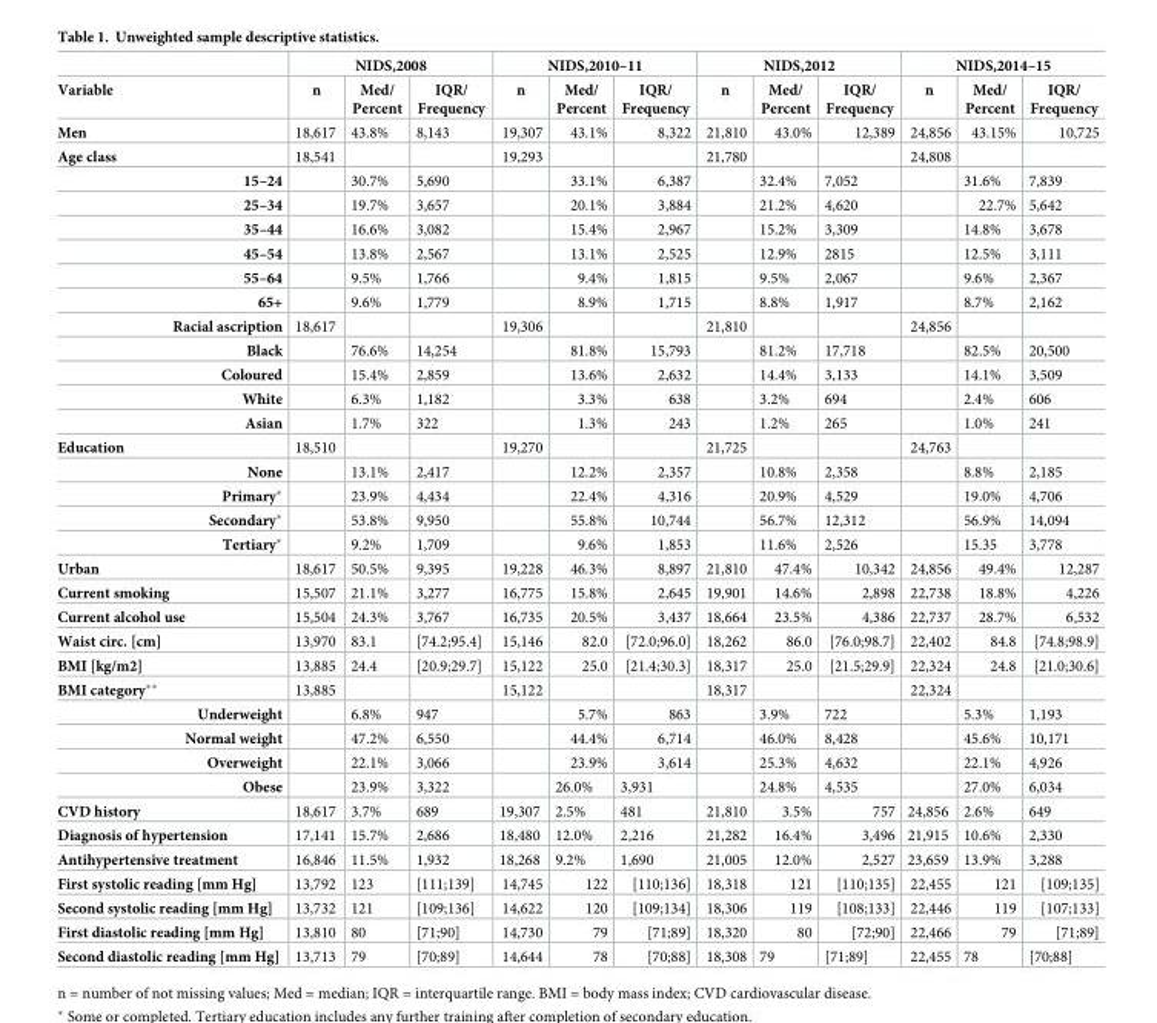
<table><thead><tr><td rowspan="2">Variable</td><td colspan="3">NIDS,2008</td><td colspan="3">NIDS,2010–11</td><td colspan="3">NIDS,2012</td><td colspan="3">NIDS,2014–15</td></tr><tr><td>n</td><td>Med/ Percent</td><td>IQR/ Frequency</td><td>n</td><td>Med/ Percent</td><td>IQR/ Frequency</td><td>n</td><td>Med/ Percent</td><td>IQR/ Frequency</td><td>n</td><td>Med/ Percent</td><td>IQR/ Frequency</td></tr></thead><tbody><tr><td>Men</td><td>18,617</td><td>43.8%</td><td>8,143</td><td>19,307</td><td>43.1%</td><td>8,322</td><td>21,810</td><td>43.0%</td><td>12,389</td><td>24,856</td><td>43.15%</td><td>10,725</td></tr><tr><td>Age class</td><td>18,541</td><td></td><td></td><td>19,293</td><td></td><td></td><td>21,780</td><td></td><td></td><td>24,808</td><td></td><td></td></tr><tr><td>15–24</td><td></td><td>30.7%</td><td>5,690</td><td></td><td>33.1%</td><td>6,387</td><td></td><td>32.4%</td><td>7,052</td><td></td><td>31.6%</td><td>7,839</td></tr><tr><td>25–34</td><td></td><td>19.7%</td><td>3,657</td><td></td><td>20.1%</td><td>3,884</td><td></td><td>21.2%</td><td>4,620</td><td></td><td>22.7%</td><td>5,642</td></tr><tr><td>35–44</td><td></td><td>16.6%</td><td>3,082</td><td></td><td>15.4%</td><td>2,967</td><td></td><td>15.2%</td><td>3,309</td><td></td><td>14.8%</td><td>3,678</td></tr><tr><td>45–54</td><td></td><td>13.8%</td><td>2,567</td><td></td><td>13.1%</td><td>2,525</td><td></td><td>12.9%</td><td>2815</td><td></td><td>12.5%</td><td>3,111</td></tr><tr><td>55–64</td><td></td><td>9.5%</td><td>1,766</td><td></td><td>9.4%</td><td>1,815</td><td></td><td>9.5%</td><td>2,067</td><td></td><td>9.6%</td><td>2,367</td></tr><tr><td>65+</td><td></td><td>9.6%</td><td>1,779</td><td></td><td>8.9%</td><td>1,715</td><td></td><td>8.8%</td><td>1,917</td><td></td><td>8.7%</td><td>2,162</td></tr><tr><td>Racial ascription</td><td>18,617</td><td></td><td></td><td>19,306</td><td></td><td></td><td>21,810</td><td></td><td></td><td>24,856</td><td></td><td></td></tr><tr><td>Black</td><td></td><td>76.6%</td><td>14,254</td><td></td><td>81.8%</td><td>15,793</td><td></td><td>81.2%</td><td>17,718</td><td></td><td>82.5%</td><td>20,500</td></tr><tr><td>Coloured</td><td></td><td>15.4%</td><td>2,859</td><td></td><td>13.6%</td><td>2,632</td><td></td><td>14.4%</td><td>3,133</td><td></td><td>14.1%</td><td>3,509</td></tr><tr><td>White</td><td></td><td>6.3%</td><td>1,182</td><td></td><td>3.3%</td><td>638</td><td></td><td>3.2%</td><td>694</td><td></td><td>2.4%</td><td>606</td></tr><tr><td>Asian</td><td></td><td>1.7%</td><td>322</td><td></td><td>1.3%</td><td>243</td><td></td><td>1.2%</td><td>265</td><td></td><td>1.0%</td><td>241</td></tr><tr><td>Education</td><td>18,510</td><td></td><td></td><td>19,270</td><td></td><td></td><td>21,725</td><td></td><td></td><td>24,763</td><td></td><td></td></tr><tr><td>None</td><td></td><td>13.1%</td><td>2,417</td><td></td><td>12.2%</td><td>2,357</td><td></td><td>10.8%</td><td>2,358</td><td></td><td>8.8%</td><td>2,185</td></tr><tr><td>Primary*</td><td></td><td>23.9%</td><td>4,434</td><td></td><td>22.4%</td><td>4,316</td><td></td><td>20.9%</td><td>4,529</td><td></td><td>19.0%</td><td>4,706</td></tr><tr><td>Secondary*</td><td></td><td>53.8%</td><td>9,950</td><td></td><td>55.8%</td><td>10,744</td><td></td><td>56.7%</td><td>12,312</td><td></td><td>56.9%</td><td>14,094</td></tr><tr><td>Tertiary*</td><td></td><td>9.2%</td><td>1,709</td><td></td><td>9.6%</td><td>1,853</td><td></td><td>11.6%</td><td>2,526</td><td></td><td>15.35</td><td>3,778</td></tr><tr><td>Urban</td><td>18,617</td><td>50.5%</td><td>9,395</td><td>19,228</td><td>46.3%</td><td>8,897</td><td>21,810</td><td>47.4%</td><td>10,342</td><td>24,856</td><td>49.4%</td><td>12,287</td></tr><tr><td>Current smoking</td><td>15,507</td><td>21.1%</td><td>3,277</td><td>16,775</td><td>15.8%</td><td>2,645</td><td>19,901</td><td>14.6%</td><td>2,898</td><td>22,738</td><td>18.8%</td><td>4,226</td></tr><tr><td>Current alcohol use</td><td>15,504</td><td>24.3%</td><td>3,767</td><td>16,735</td><td>20.5%</td><td>3,437</td><td>18,664</td><td>23.5%</td><td>4,386</td><td>22,737</td><td>28.7%</td><td>6,532</td></tr><tr><td>Waist circ. [cm]</td><td>13,970</td><td>83.1</td><td>[74.2;95.4]</td><td>15,146</td><td>82.0</td><td>[72.0;96.0]</td><td>18,262</td><td>86.0</td><td>[76.0;98.7]</td><td>22,402</td><td>84.8</td><td>[74.8;98.9]</td></tr><tr><td>BMI [kg/m2]</td><td>13,885</td><td>24.4</td><td>[20.9;29.7]</td><td>15,122</td><td>25.0</td><td>[21.4;30.3]</td><td>18,317</td><td>25.0</td><td>[21.5;29.9]</td><td>22,324</td><td>24.8</td><td>[21.0;30.6]</td></tr><tr><td>BMI category**</td><td>13,885</td><td></td><td></td><td>15,122</td><td></td><td></td><td>18,317</td><td></td><td></td><td>22,324</td><td></td><td></td></tr><tr><td>Underweight</td><td></td><td>6.8%</td><td>947</td><td></td><td>5.7%</td><td>863</td><td></td><td>3.9%</td><td>722</td><td></td><td>5.3%</td><td>1,193</td></tr><tr><td>Normal weight</td><td></td><td>47.2%</td><td>6,550</td><td></td><td>44.4%</td><td>6,714</td><td></td><td>46.0%</td><td>8,428</td><td></td><td>45.6%</td><td>10,171</td></tr><tr><td>Overweight</td><td></td><td>22.1%</td><td>3,066</td><td></td><td>23.9%</td><td>3,614</td><td></td><td>25.3%</td><td>4,632</td><td></td><td>22.1%</td><td>4,926</td></tr><tr><td>Obese</td><td></td><td>23.9%</td><td>3,322</td><td></td><td>26.0%</td><td>3,931</td><td></td><td>24.8%</td><td>4,535</td><td></td><td>27.0%</td><td>6,034</td></tr><tr><td>CVD history</td><td>18,617</td><td>3.7%</td><td>689</td><td>19,307</td><td>2.5%</td><td>481</td><td>21,810</td><td>3.5%</td><td>757</td><td>24,856</td><td>2.6%</td><td>649</td></tr><tr><td>Diagnosis of hypertension</td><td>17,141</td><td>15.7%</td><td>2,686</td><td>18,480</td><td>12.0%</td><td>2,216</td><td>21,282</td><td>16.4%</td><td>3,496</td><td>21,915</td><td>10.6%</td><td>2,330</td></tr><tr><td>Antihypertensive treatment</td><td>16,846</td><td>11.5%</td><td>1,932</td><td>18,268</td><td>9.2%</td><td>1,690</td><td>21,005</td><td>12.0%</td><td>2,527</td><td>23,659</td><td>13.9%</td><td>3,288</td></tr><tr><td>First systolic reading [mm Hg]</td><td>13,792</td><td>123</td><td>[111;139]</td><td>14,745</td><td>122</td><td>[110;136]</td><td>18,318</td><td>121</td><td>[110;135]</td><td>22,455</td><td>121</td><td>[109;135]</td></tr><tr><td>Second systolic reading [mm Hg]</td><td>13,732</td><td>121</td><td>[109;136]</td><td>14,622</td><td>120</td><td>[109;134]</td><td>18,306</td><td>119</td><td>[108;133]</td><td>22,446</td><td>119</td><td>[107;133]</td></tr><tr><td>First diastolic reading [mm Hg]</td><td>13,810</td><td>80</td><td>[71;90]</td><td>14,730</td><td>79</td><td>[71;89]</td><td>18,320</td><td>80</td><td>[72;90]</td><td>22,466</td><td>79</td><td>[71;89]</td></tr><tr><td>Second diastolic reading [mm Hg]</td><td>13,713</td><td>79</td><td>[70;89]</td><td>14,644</td><td>78</td><td>[70;88]</td><td>18,308</td><td>79</td><td>[71;89]</td><td>22,455</td><td>78</td><td>[70;88]</td></tr></tbody></table>